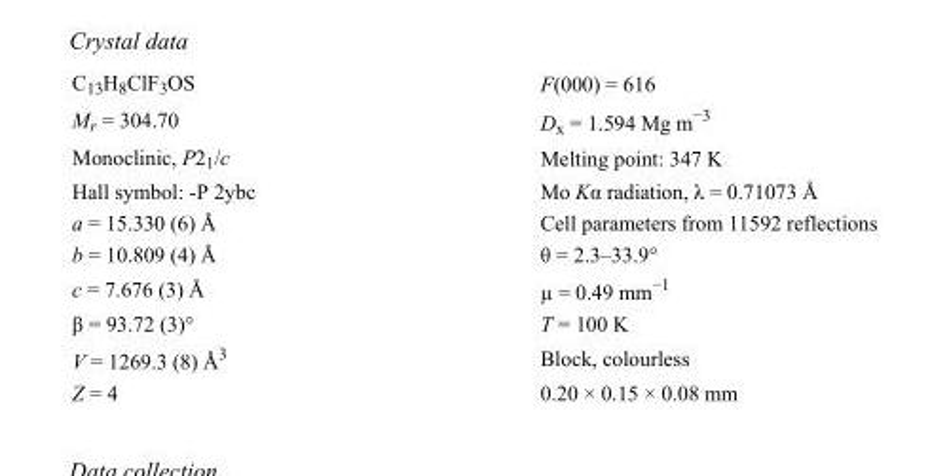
<table><tbody><tr><td>C<sub>13</sub>H<sub>8</sub>ClF<sub>3</sub>OS</td><td>F(000) = 616</td></tr><tr><td>M<sub>r</sub> = 304.70</td><td>D<sub>x</sub> = 1.594 Mg m<sup>−3</sup></td></tr><tr><td>Monoclinic, P2<sub>1</sub>/c</td><td>Melting point: 347 K</td></tr><tr><td>Hall symbol: -P 2ybc</td><td>Mo Kα radiation, λ = 0.71073 Å</td></tr><tr><td>a = 15.330 (6) Å</td><td>Cell parameters from 11592 reflections</td></tr><tr><td>b = 10.809 (4) Å</td><td>θ = 2.3–33.9°</td></tr><tr><td>c = 7.676 (3) Å</td><td>µ = 0.49 mm<sup>−1</sup></td></tr><tr><td>β = 93.72 (3)°</td><td>T = 100 K</td></tr><tr><td>V = 1269.3 (8) Å<sup>3</sup></td><td>Block, colourless</td></tr><tr><td>Z = 4</td><td>0.20 × 0.15 × 0.08 mm</td></tr></tbody></table>